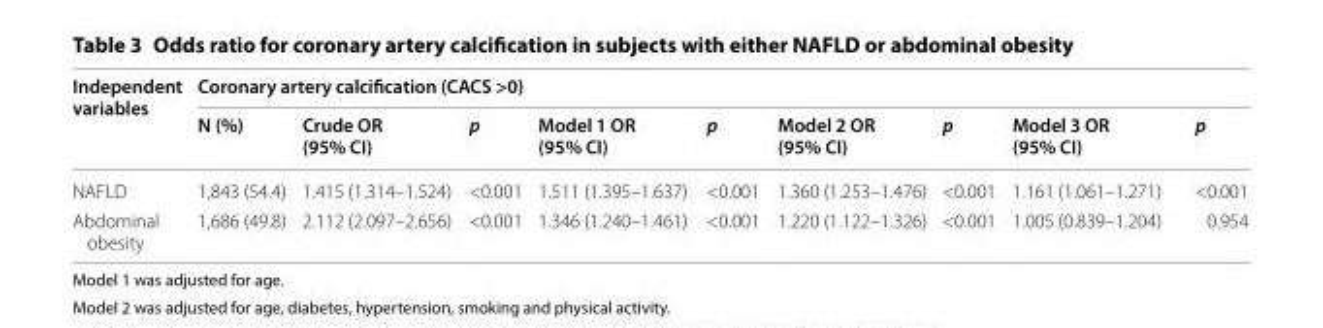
<table><thead><tr><td rowspan="2">Independent variables</td><td colspan="9">Coronary artery calcification (CACS &gt;0)</td></tr><tr><td>N (%)</td><td>Crude OR (95% CI)</td><td>p</td><td>Model 1 OR (95% CI)</td><td>p</td><td>Model 2 OR (95% CI)</td><td>p</td><td>Model 3 OR (95% CI)</td><td>p</td></tr></thead><tbody><tr><td>NAFLD</td><td>1,843 (54.4)</td><td>1.415 (1.314–1.524)</td><td>&lt;0.001</td><td>1.511 (1.395–1.637)</td><td>&lt;0.001</td><td>1.360 (1.253–1.476)</td><td>&lt;0.001</td><td>1.161 (1.061–1.271)</td><td>&lt;0.001</td></tr><tr><td>Abdominal obesity</td><td>1,686 (49.8)</td><td>2.112 (2.097–2.656)</td><td>&lt;0.001</td><td>1.346 (1.240–1.461)</td><td>&lt;0.001</td><td>1.220 (1.122–1.326)</td><td>&lt;0.001</td><td>1.005 (0.839–1.204)</td><td>0.954</td></tr></tbody></table>